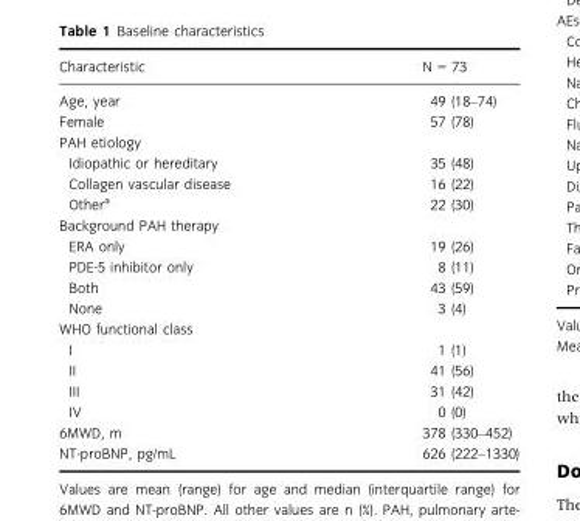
<table><thead><tr><td>Characteristic</td><td>N = 73</td></tr></thead><tbody><tr><td>Age, year</td><td>49 (18–74)</td></tr><tr><td>Female</td><td>57 (78)</td></tr><tr><td colspan="2">PAH etiology</td></tr><tr><td>Idiopathic or hereditary</td><td>35 (48)</td></tr><tr><td>Collagen vascular disease</td><td>16 (22)</td></tr><tr><td>Other<sup>a</sup></td><td>22 (30)</td></tr><tr><td colspan="2">Background PAH therapy</td></tr><tr><td>ERA only</td><td>19 (26)</td></tr><tr><td>PDE-5 inhibitor only</td><td>8 (11)</td></tr><tr><td>Both</td><td>43 (59)</td></tr><tr><td>None</td><td>3 (4)</td></tr><tr><td colspan="2">WHO functional class</td></tr><tr><td>I</td><td>1 (1)</td></tr><tr><td>II</td><td>41 (56)</td></tr><tr><td>III</td><td>31 (42)</td></tr><tr><td>IV</td><td>0 (0)</td></tr><tr><td>6MWD, m</td><td>378 (330–452)</td></tr><tr><td>NT-proBNP, pg/mL</td><td>626 (222–1330)</td></tr></tbody></table>